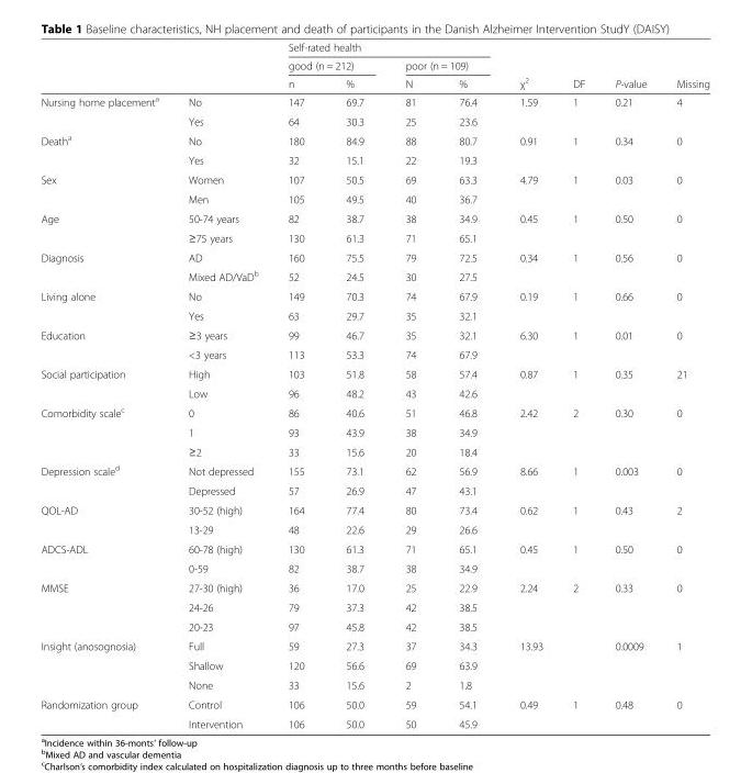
<table><thead><tr><td rowspan="3"></td><td rowspan="3"></td><td colspan="4">Self-rated health</td><td rowspan="3">χ<sup>2</sup></td><td rowspan="3">DF</td><td rowspan="3">P-value</td><td rowspan="3">Missing</td></tr><tr><td colspan="2">good (n = 212)</td><td colspan="2">poor (n = 109)</td></tr><tr><td>n</td><td>%</td><td>N</td><td>%</td></tr></thead><tbody><tr><td rowspan="2">Nursing home placement<sup>a</sup></td><td>No</td><td>147</td><td>69.7</td><td>81</td><td>76.4</td><td>1.59</td><td>1</td><td>0.21</td><td>4</td></tr><tr><td>Yes</td><td>64</td><td>30.3</td><td>25</td><td>23.6</td><td></td><td></td><td></td><td></td></tr><tr><td rowspan="2">Death<sup>a</sup></td><td>No</td><td>180</td><td>84.9</td><td>88</td><td>80.7</td><td>0.91</td><td>1</td><td>0.34</td><td>0</td></tr><tr><td>Yes</td><td>32</td><td>15.1</td><td>22</td><td>19.3</td><td></td><td></td><td></td><td></td></tr><tr><td rowspan="2">Sex</td><td>Women</td><td>107</td><td>50.5</td><td>69</td><td>63.3</td><td>4.79</td><td>1</td><td>0.03</td><td>0</td></tr><tr><td>Men</td><td>105</td><td>49.5</td><td>40</td><td>36.7</td><td></td><td></td><td></td><td></td></tr><tr><td rowspan="2">Age</td><td>50-74 years</td><td>82</td><td>38.7</td><td>38</td><td>34.9</td><td>0.45</td><td>1</td><td>0.50</td><td>0</td></tr><tr><td>≥75 years</td><td>130</td><td>61.3</td><td>71</td><td>65.1</td><td></td><td></td><td></td><td></td></tr><tr><td rowspan="2">Diagnosis</td><td>AD</td><td>160</td><td>75.5</td><td>79</td><td>72.5</td><td>0.34</td><td>1</td><td>0.56</td><td>0</td></tr><tr><td>Mixed AD/VaD<sup>b</sup></td><td>52</td><td>24.5</td><td>30</td><td>27.5</td><td></td><td></td><td></td><td></td></tr><tr><td rowspan="2">Living alone</td><td>No</td><td>149</td><td>70.3</td><td>74</td><td>67.9</td><td>0.19</td><td>1</td><td>0.66</td><td>0</td></tr><tr><td>Yes</td><td>63</td><td>29.7</td><td>35</td><td>32.1</td><td></td><td></td><td></td><td></td></tr><tr><td rowspan="2">Education</td><td>≥3 years</td><td>99</td><td>46.7</td><td>35</td><td>32.1</td><td>6.30</td><td>1</td><td>0.01</td><td>0</td></tr><tr><td>&lt;3 years</td><td>113</td><td>53.3</td><td>74</td><td>67.9</td><td></td><td></td><td></td><td></td></tr><tr><td rowspan="2">Social participation</td><td>High</td><td>103</td><td>51.8</td><td>58</td><td>57.4</td><td>0.87</td><td>1</td><td>0.35</td><td>21</td></tr><tr><td>Low</td><td>96</td><td>48.2</td><td>43</td><td>42.6</td><td></td><td></td><td></td><td></td></tr><tr><td rowspan="3">Comorbidity scale<sup>c</sup></td><td>0</td><td>86</td><td>40.6</td><td>51</td><td>46.8</td><td>2.42</td><td>2</td><td>0.30</td><td>0</td></tr><tr><td>1</td><td>93</td><td>43.9</td><td>38</td><td>34.9</td><td></td><td></td><td></td><td></td></tr><tr><td>≥2</td><td>33</td><td>15.6</td><td>20</td><td>18.4</td><td></td><td></td><td></td><td></td></tr><tr><td rowspan="2">Depression scale<sup>d</sup></td><td>Not depressed</td><td>155</td><td>73.1</td><td>62</td><td>56.9</td><td>8.66</td><td>1</td><td>0.003</td><td>0</td></tr><tr><td>Depressed</td><td>57</td><td>26.9</td><td>47</td><td>43.1</td><td></td><td></td><td></td><td></td></tr><tr><td rowspan="2">QOL-AD</td><td>30-52 (high)</td><td>164</td><td>77.4</td><td>80</td><td>73.4</td><td>0.62</td><td>1</td><td>0.43</td><td>2</td></tr><tr><td>13-29</td><td>48</td><td>22.6</td><td>29</td><td>26.6</td><td></td><td></td><td></td><td></td></tr><tr><td rowspan="2">ADCS-ADL</td><td>60-78 (high)</td><td>130</td><td>61.3</td><td>71</td><td>65.1</td><td>0.45</td><td>1</td><td>0.50</td><td>0</td></tr><tr><td>0-59</td><td>82</td><td>38.7</td><td>38</td><td>34.9</td><td></td><td></td><td></td><td></td></tr><tr><td rowspan="3">MMSE</td><td>27-30 (high)</td><td>36</td><td>17.0</td><td>25</td><td>22.9</td><td>2.24</td><td>2</td><td>0.33</td><td>0</td></tr><tr><td>24-26</td><td>79</td><td>37.3</td><td>42</td><td>38.5</td><td></td><td></td><td></td><td></td></tr><tr><td>20-23</td><td>97</td><td>45.8</td><td>42</td><td>38.5</td><td></td><td></td><td></td><td></td></tr><tr><td rowspan="3">Insight (anosognosia)</td><td>Full</td><td>59</td><td>27.3</td><td>37</td><td>34.3</td><td>13.93</td><td></td><td>0.0009</td><td>1</td></tr><tr><td>Shallow</td><td>120</td><td>56.6</td><td>69</td><td>63.9</td><td></td><td></td><td></td><td></td></tr><tr><td>None</td><td>33</td><td>15.6</td><td>2</td><td>1.8</td><td></td><td></td><td></td><td></td></tr><tr><td rowspan="2">Randomization group</td><td>Control</td><td>106</td><td>50.0</td><td>59</td><td>54.1</td><td>0.49</td><td>1</td><td>0.48</td><td>0</td></tr><tr><td>Intervention</td><td>106</td><td>50.0</td><td>50</td><td>45.9</td><td></td><td></td><td></td><td></td></tr></tbody></table>